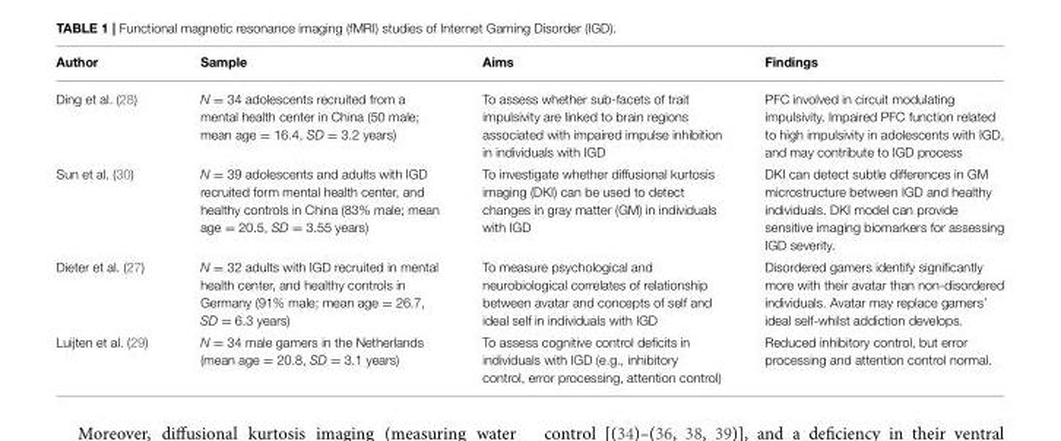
<table><thead><tr><td>Author</td><td>Sample</td><td>Aims</td><td>Findings</td></tr></thead><tbody><tr><td>Ding et al. (28)</td><td>N = 34 adolescents recruited from a mental health center in China (50 male; mean age = 16.4, SD = 3.2 years)</td><td>To assess whether sub-facets of trait impulsivity are linked to brain regions associated with impaired impulse inhibition in individuals with IGD</td><td>PFC involved in circuit modulating impulsivity. Impaired PFC function related to high impulsivity in adolescents with IGD, and may contribute to IGD process</td></tr><tr><td>Sun et al. (30)</td><td>N = 39 adolescents and adults with IGD recruited form mental health center, and healthy controls in China (83% male; mean age = 20.5, SD = 3.55 years)</td><td>To investigate whether diffusional kurtosis imaging (DKI) can be used to detect changes in gray matter (GM) in individuals with IGD</td><td>DKI can detect subtle differences in GM microstructure between IGD and healthy individuals. DKI model can provide sensitive imaging biomarkers for assessing IGD severity.</td></tr><tr><td>Dieter et al. (27)</td><td>N = 32 adults with IGD recruited in mental health center, and healthy controls in Germany (91% male; mean age = 26.7, SD = 6.3 years)</td><td>To measure psychological and neurobiological correlates of relationship between avatar and concepts of self and ideal self in individuals with IGD</td><td>Disordered gamers identify significantly more with their avatar than non-disordered individuals. Avatar may replace gamers’ ideal self-whilst addiction develops.</td></tr><tr><td>Luijten et al. (29)</td><td>N = 34 male gamers in the Netherlands (mean age = 20.8, SD = 3.1 years)</td><td>To assess cognitive control deficits in individuals with IGD (e.g., inhibitory control, error processing, attention control)</td><td>Reduced inhibitory control, but error processing and attention control normal.</td></tr></tbody></table>